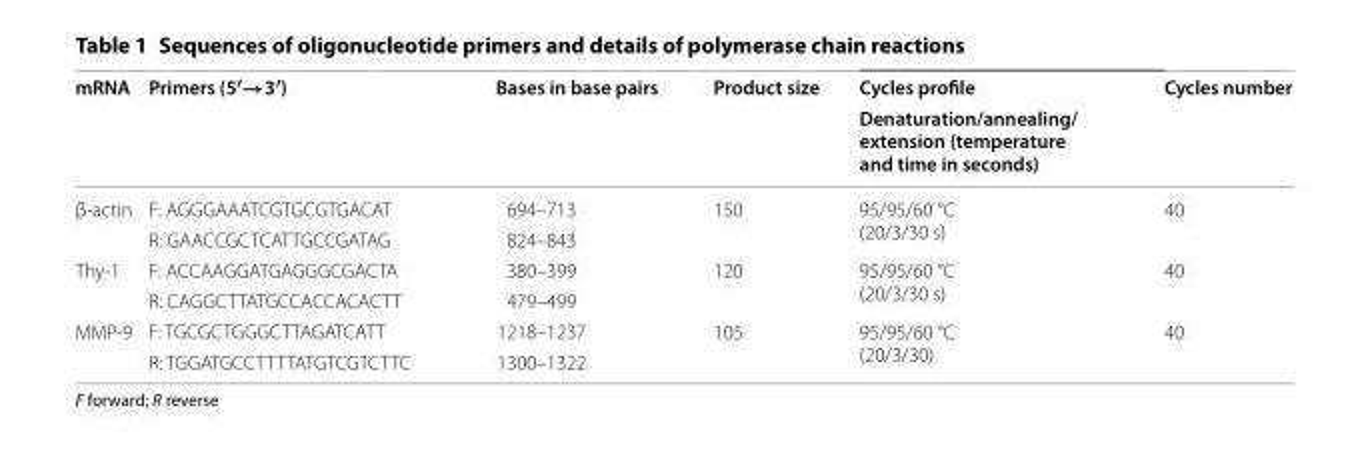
<table><thead><tr><td rowspan="2">mRNA</td><td rowspan="2">Primers (5′→3′)</td><td rowspan="2">Bases in base pairs</td><td rowspan="2">Product size</td><td rowspan="2">Cycles profile Denaturation/annealing/ extension (temperature and time in seconds)</td><td rowspan="2">Cycles number</td></tr><tr></tr></thead><tbody><tr><td rowspan="2">β‑actin</td><td>F: AGGGAAATCGTGCGTGACAT</td><td>694–713</td><td rowspan="2">150</td><td rowspan="2">95/95/60 °C (20/3/30 s)</td><td rowspan="2">40</td></tr><tr><td>R: GAACCGCTCATTGCCGATAG</td><td>824–843</td></tr><tr><td rowspan="2">Thy‑1</td><td>F: ACCAAGGATGAGGGCGACTA</td><td>380–399</td><td rowspan="2">120</td><td rowspan="2">95/95/60 °C (20/3/30 s)</td><td rowspan="2">40</td></tr><tr><td>R: CAGGCTTATGCCACCACACTT</td><td>479–499</td></tr><tr><td rowspan="2">MMP‑9</td><td>F: TGCGCTGGGCTTAGATCATT</td><td>1218–1237</td><td rowspan="2">105</td><td rowspan="2">95/95/60 °C (20/3/30)</td><td rowspan="2">40</td></tr><tr><td>R: TGGATGCCTTTTATGTCGTCTTC</td><td>1300–1322</td></tr></tbody></table>